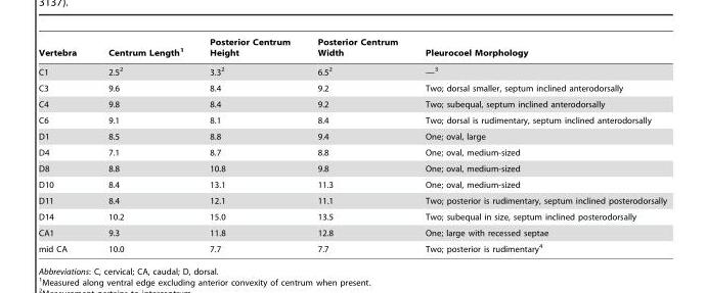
<table><thead><tr><td>Vertebra</td><td>Centrum Length<sup>1</sup></td><td>Posterior Centrum Height</td><td>Posterior Centrum Width</td><td>Pleurocoel Morphology</td></tr></thead><tbody><tr><td>C1</td><td>2.5<sup>2</sup></td><td>3.3<sup>2</sup></td><td>6.5<sup>2</sup></td><td>—3</td></tr><tr><td>C3</td><td>9.6</td><td>8.4</td><td>9.2</td><td>Two; dorsal smaller, septum inclined anterodorsally</td></tr><tr><td>C4</td><td>9.8</td><td>8.4</td><td>9.2</td><td>Two; subequal, septum inclined anterodorsally</td></tr><tr><td>C6</td><td>9.1</td><td>8.1</td><td>8.4</td><td>Two; dorsal is rudimentary, septum inclined anterodorsally</td></tr><tr><td>D1</td><td>8.5</td><td>8.8</td><td>9.4</td><td>One; oval, large</td></tr><tr><td>D4</td><td>7.1</td><td>8.7</td><td>8.8</td><td>One; oval, medium-sized</td></tr><tr><td>D8</td><td>8.8</td><td>10.8</td><td>9.8</td><td>One; oval, medium-sized</td></tr><tr><td>D10</td><td>8.4</td><td>13.1</td><td>11.3</td><td>One; oval, medium-sized</td></tr><tr><td>D11</td><td>8.4</td><td>12.1</td><td>11.1</td><td>Two; posterior is rudimentary, septum inclined posterodorsally</td></tr><tr><td>D14</td><td>10.2</td><td>15.0</td><td>13.5</td><td>Two; subequal in size, septum inclined posterodorsally</td></tr><tr><td>CA1</td><td>9.3</td><td>11.8</td><td>12.8</td><td>One; large with recessed septae</td></tr><tr><td>mid CA</td><td>10.0</td><td>7.7</td><td>7.7</td><td>Two; posterior is rudimentary<sup>4</sup></td></tr></tbody></table>